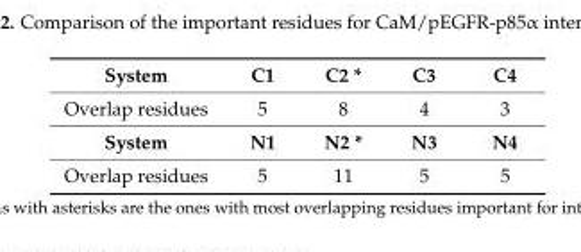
<table><tbody><tr><td>System</td><td>C1</td><td>C2 *</td><td>C3</td><td>C4</td></tr><tr><td>Overlap residues</td><td>5</td><td>8</td><td>4</td><td>3</td></tr><tr><td>System</td><td>N1</td><td>N2 *</td><td>N3</td><td>N4</td></tr><tr><td>Overlap residues</td><td>5</td><td>11</td><td>5</td><td>5</td></tr></tbody></table>